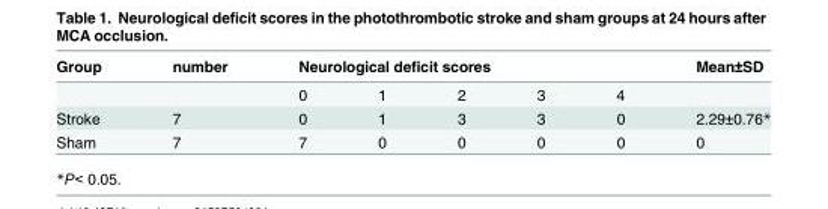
<table><thead><tr><td rowspan="2">Group</td><td rowspan="2">number</td><td colspan="5">Neurological deficit scores</td><td rowspan="2">Mean±SD</td></tr><tr><td>0</td><td>1</td><td>2</td><td>3</td><td>4</td></tr></thead><tbody><tr><td>Stroke</td><td>7</td><td>0</td><td>1</td><td>3</td><td>3</td><td>0</td><td>2.29±0.76*</td></tr><tr><td>Sham</td><td>7</td><td>7</td><td>0</td><td>0</td><td>0</td><td>0</td><td>0</td></tr></tbody></table>